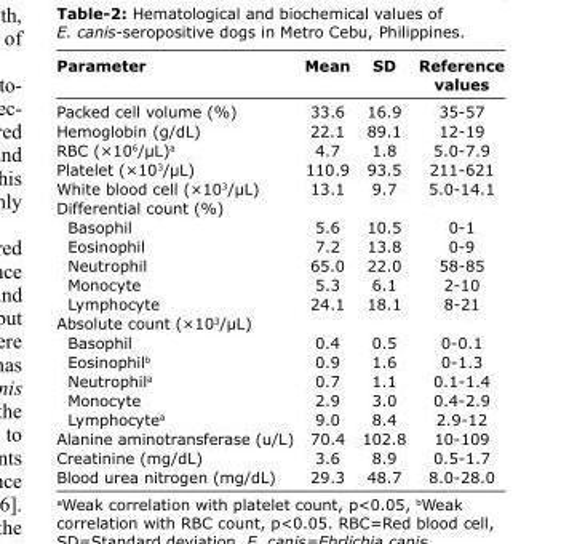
<table><thead><tr><td>Parameter</td><td>Mean</td><td>SD</td><td>Reference values</td></tr></thead><tbody><tr><td>Packed cell volume (%)</td><td>33.6</td><td>16.9</td><td>35-57</td></tr><tr><td>Hemoglobin (g/dL)</td><td>22.1</td><td>89.1</td><td>12-19</td></tr><tr><td>RBC (×10<sup>6</sup>/μL)<sup>a</sup></td><td>4.7</td><td>1.8</td><td>5.0-7.9</td></tr><tr><td>Platelet (×10<sup>3</sup>/μL)</td><td>110.9</td><td>93.5</td><td>211-621</td></tr><tr><td>White blood cell (×10<sup>3</sup>/μL)</td><td>13.1</td><td>9.7</td><td>5.0-14.1</td></tr><tr><td colspan="4">Differential count (%)</td></tr><tr><td>Basophil</td><td>5.6</td><td>10.5</td><td>0-1</td></tr><tr><td>Eosinophil</td><td>7.2</td><td>13.8</td><td>0-9</td></tr><tr><td>Neutrophil</td><td>65.0</td><td>22.0</td><td>58-85</td></tr><tr><td>Monocyte</td><td>5.3</td><td>6.1</td><td>2-10</td></tr><tr><td>Lymphocyte</td><td>24.1</td><td>18.1</td><td>8-21</td></tr><tr><td colspan="4">Absolute count (×10<sup>3</sup>/μL)</td></tr><tr><td>Basophil</td><td>0.4</td><td>0.5</td><td>0-0.1</td></tr><tr><td>Eosinophil<sup>b</sup></td><td>0.9</td><td>1.6</td><td>0-1.3</td></tr><tr><td>Neutrophil<sup>a</sup></td><td>0.7</td><td>1.1</td><td>0.1-1.4</td></tr><tr><td>Monocyte</td><td>2.9</td><td>3.0</td><td>0.4-2.9</td></tr><tr><td>Lymphocyte<sup>a</sup></td><td>9.0</td><td>8.4</td><td>2.9-12</td></tr><tr><td>Alanine aminotransferase (u/L)</td><td>70.4</td><td>102.8</td><td>10-109</td></tr><tr><td>Creatinine (mg/dL)</td><td>3.6</td><td>8.9</td><td>0.5-1.7</td></tr><tr><td>Blood urea nitrogen (mg/dL)</td><td>29.3</td><td>48.7</td><td>8.0-28.0</td></tr></tbody></table>